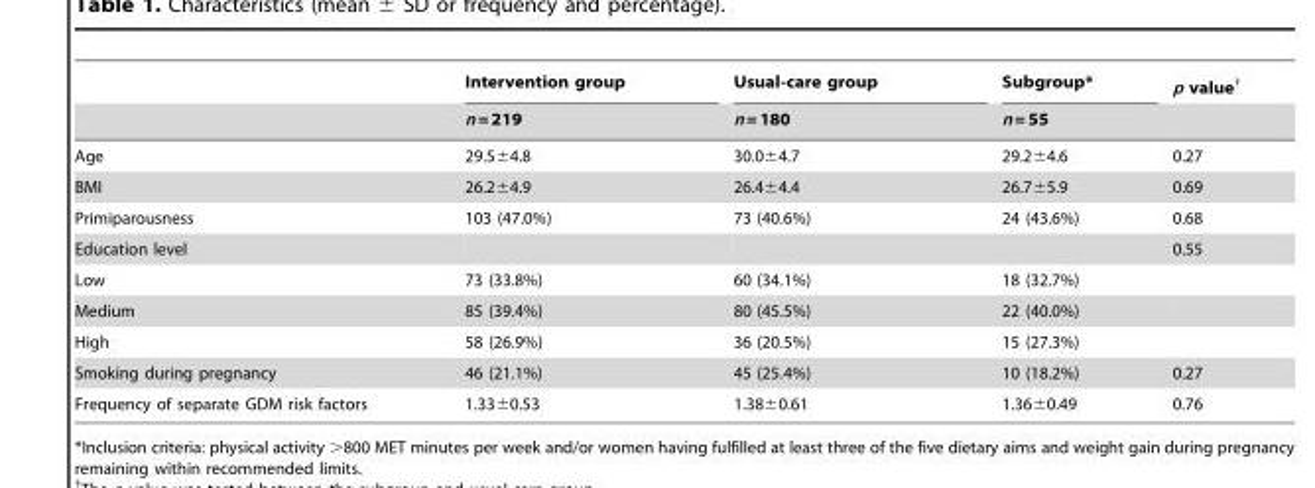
<table><thead><tr><td rowspan="2"></td><td rowspan="2">Intervention group n = 219</td><td rowspan="2">Usual-care group n = 180</td><td rowspan="2">Subgroup* n = 55</td><td rowspan="2">p value†</td></tr><tr></tr></thead><tbody><tr><td>Age</td><td>29.5±4.8</td><td>30.0±4.7</td><td>29.2±4.6</td><td>0.27</td></tr><tr><td>BMI</td><td>26.2±4.9</td><td>26.4±4.4</td><td>26.7±5.9</td><td>0.69</td></tr><tr><td>Primiparousness</td><td>103 (47.0%)</td><td>73 (40.6%)</td><td>24 (43.6%)</td><td>0.68</td></tr><tr><td>Education level</td><td></td><td></td><td></td><td>0.55</td></tr><tr><td>Low</td><td>73 (33.8%)</td><td>60 (34.1%)</td><td>18 (32.7%)</td><td></td></tr><tr><td>Medium</td><td>85 (39.4%)</td><td>80 (45.5%)</td><td>22 (40.0%)</td><td></td></tr><tr><td>High</td><td>58 (26.9%)</td><td>36 (20.5%)</td><td>15 (27.3%)</td><td></td></tr><tr><td>Smoking during pregnancy</td><td>46 (21.1%)</td><td>45 (25.4%)</td><td>10 (18.2%)</td><td>0.27</td></tr><tr><td>Frequency of separate GDM risk factors</td><td>1.33±0.53</td><td>1.38±0.61</td><td>1.36±0.49</td><td>0.76</td></tr></tbody></table>